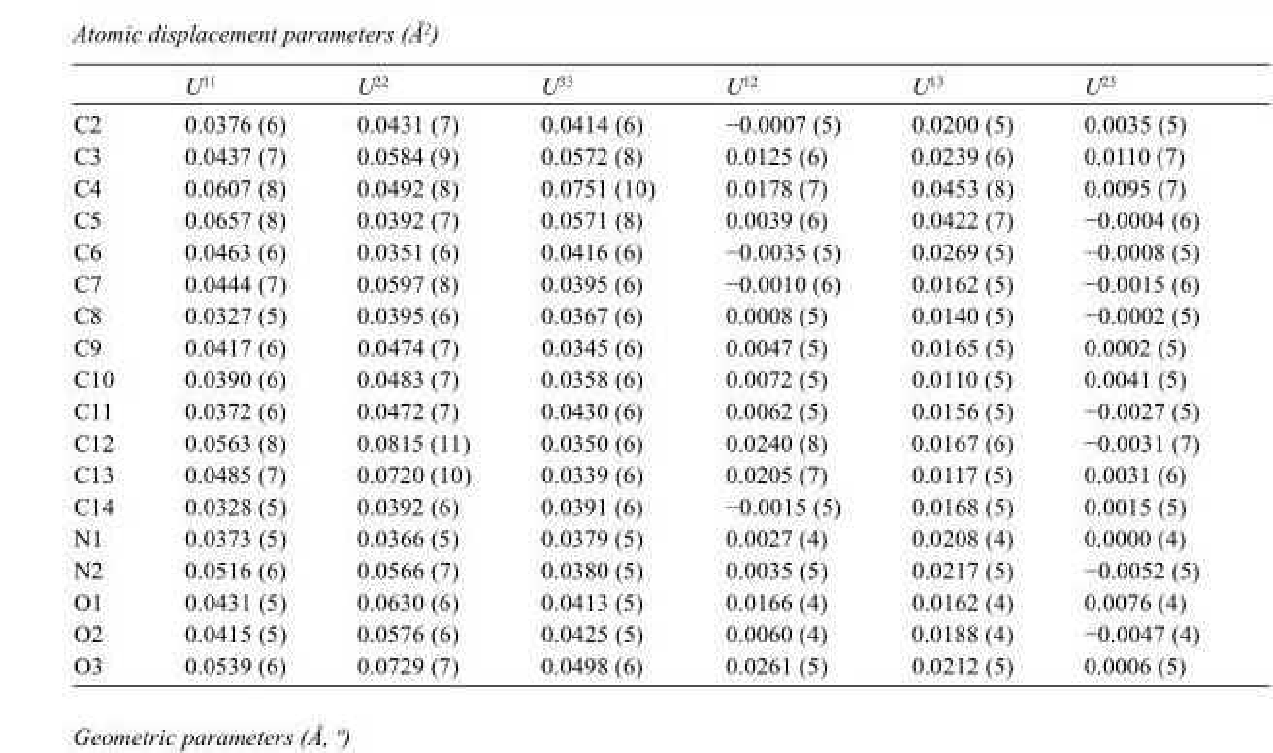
<table><thead><tr><td></td><td>U<sup>11</sup></td><td>U<sup>22</sup></td><td>U<sup>33</sup></td><td>U<sup>12</sup></td><td>U<sup>13</sup></td><td>U<sup>23</sup></td></tr></thead><tbody><tr><td>C2</td><td>0.0376 (6)</td><td>0.0431 (7)</td><td>0.0414 (6)</td><td>−0.0007 (5)</td><td>0.0200 (5)</td><td>0.0035 (5)</td></tr><tr><td>C3</td><td>0.0437 (7)</td><td>0.0584 (9)</td><td>0.0572 (8)</td><td>0.0125 (6)</td><td>0.0239 (6)</td><td>0.0110 (7)</td></tr><tr><td>C4</td><td>0.0607 (8)</td><td>0.0492 (8)</td><td>0.0751 (10)</td><td>0.0178 (7)</td><td>0.0453 (8)</td><td>0.0095 (7)</td></tr><tr><td>C5</td><td>0.0657 (8)</td><td>0.0392 (7)</td><td>0.0571 (8)</td><td>0.0039 (6)</td><td>0.0422 (7)</td><td>−0.0004 (6)</td></tr><tr><td>C6</td><td>0.0463 (6)</td><td>0.0351 (6)</td><td>0.0416 (6)</td><td>−0.0035 (5)</td><td>0.0269 (5)</td><td>−0.0008 (5)</td></tr><tr><td>C7</td><td>0.0444 (7)</td><td>0.0597 (8)</td><td>0.0395 (6)</td><td>−0.0010 (6)</td><td>0.0162 (5)</td><td>−0.0015 (6)</td></tr><tr><td>C8</td><td>0.0327 (5)</td><td>0.0395 (6)</td><td>0.0367 (6)</td><td>0.0008 (5)</td><td>0.0140 (5)</td><td>−0.0002 (5)</td></tr><tr><td>C9</td><td>0.0417 (6)</td><td>0.0474 (7)</td><td>0.0345 (6)</td><td>0.0047 (5)</td><td>0.0165 (5)</td><td>0.0002 (5)</td></tr><tr><td>C10</td><td>0.0390 (6)</td><td>0.0483 (7)</td><td>0.0358 (6)</td><td>0.0072 (5)</td><td>0.0110 (5)</td><td>0.0041 (5)</td></tr><tr><td>C11</td><td>0.0372 (6)</td><td>0.0472 (7)</td><td>0.0430 (6)</td><td>0.0062 (5)</td><td>0.0156 (5)</td><td>−0.0027 (5)</td></tr><tr><td>C12</td><td>0.0563 (8)</td><td>0.0815 (11)</td><td>0.0350 (6)</td><td>0.0240 (8)</td><td>0.0167 (6)</td><td>−0.0031 (7)</td></tr><tr><td>C13</td><td>0.0485 (7)</td><td>0.0720 (10)</td><td>0.0339 (6)</td><td>0.0205 (7)</td><td>0.0117 (5)</td><td>0.0031 (6)</td></tr><tr><td>C14</td><td>0.0328 (5)</td><td>0.0392 (6)</td><td>0.0391 (6)</td><td>−0.0015 (5)</td><td>0.0168 (5)</td><td>0.0015 (5)</td></tr><tr><td>N1</td><td>0.0373 (5)</td><td>0.0366 (5)</td><td>0.0379 (5)</td><td>0.0027 (4)</td><td>0.0208 (4)</td><td>0.0000 (4)</td></tr><tr><td>N2</td><td>0.0516 (6)</td><td>0.0566 (7)</td><td>0.0380 (5)</td><td>0.0035 (5)</td><td>0.0217 (5)</td><td>−0.0052 (5)</td></tr><tr><td>O1</td><td>0.0431 (5)</td><td>0.0630 (6)</td><td>0.0413 (5)</td><td>0.0166 (4)</td><td>0.0162 (4)</td><td>0.0076 (4)</td></tr><tr><td>O2</td><td>0.0415 (5)</td><td>0.0576 (6)</td><td>0.0425 (5)</td><td>0.0060 (4)</td><td>0.0188 (4)</td><td>−0.0047 (4)</td></tr><tr><td>O3</td><td>0.0539 (6)</td><td>0.0729 (7)</td><td>0.0498 (6)</td><td>0.0261 (5)</td><td>0.0212 (5)</td><td>0.0006 (5)</td></tr></tbody></table>